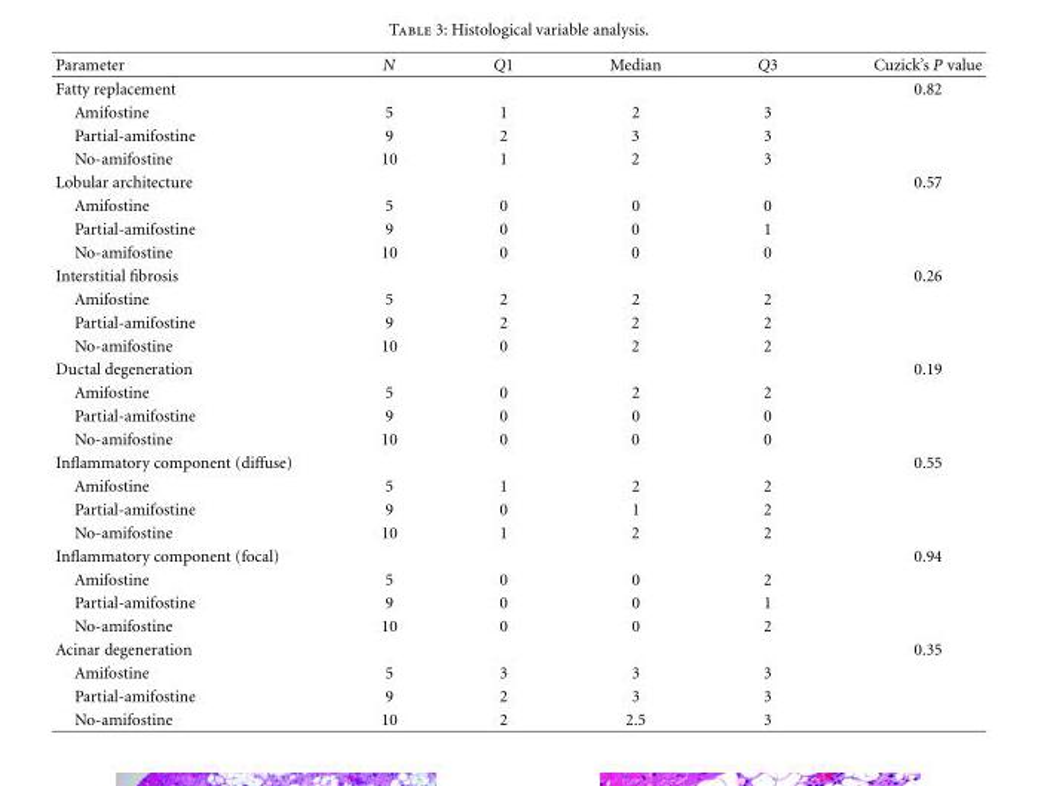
<table><thead><tr><td>Parameter</td><td>N</td><td>Q1</td><td>Median</td><td>Q3</td><td>Cuzick’s P value</td></tr></thead><tbody><tr><td>Fatty replacement</td><td></td><td></td><td></td><td></td><td>0.82</td></tr><tr><td>Amifostine</td><td>5</td><td>1</td><td>2</td><td>3</td><td></td></tr><tr><td>Partial-amifostine</td><td>9</td><td>2</td><td>3</td><td>3</td><td></td></tr><tr><td>No-amifostine</td><td>10</td><td>1</td><td>2</td><td>3</td><td></td></tr><tr><td>Lobular architecture</td><td></td><td></td><td></td><td></td><td>0.57</td></tr><tr><td>Amifostine</td><td>5</td><td>0</td><td>0</td><td>0</td><td></td></tr><tr><td>Partial-amifostine</td><td>9</td><td>0</td><td>0</td><td>1</td><td></td></tr><tr><td>No-amifostine</td><td>10</td><td>0</td><td>0</td><td>0</td><td></td></tr><tr><td>Interstitial fibrosis</td><td></td><td></td><td></td><td></td><td>0.26</td></tr><tr><td>Amifostine</td><td>5</td><td>2</td><td>2</td><td>2</td><td></td></tr><tr><td>Partial-amifostine</td><td>9</td><td>2</td><td>2</td><td>2</td><td></td></tr><tr><td>No-amifostine</td><td>10</td><td>0</td><td>2</td><td>2</td><td></td></tr><tr><td>Ductal degeneration</td><td></td><td></td><td></td><td></td><td>0.19</td></tr><tr><td>Amifostine</td><td>5</td><td>0</td><td>2</td><td>2</td><td></td></tr><tr><td>Partial-amifostine</td><td>9</td><td>0</td><td>0</td><td>0</td><td></td></tr><tr><td>No-amifostine</td><td>10</td><td>0</td><td>0</td><td>0</td><td></td></tr><tr><td>Inflammatory component (diffuse)</td><td></td><td></td><td></td><td></td><td>0.55</td></tr><tr><td>Amifostine</td><td>5</td><td>1</td><td>2</td><td>2</td><td></td></tr><tr><td>Partial-amifostine</td><td>9</td><td>0</td><td>1</td><td>2</td><td></td></tr><tr><td>No-amifostine</td><td>10</td><td>1</td><td>2</td><td>2</td><td></td></tr><tr><td>Inflammatory component (focal)</td><td></td><td></td><td></td><td></td><td>0.94</td></tr><tr><td>Amifostine</td><td>5</td><td>0</td><td>0</td><td>2</td><td></td></tr><tr><td>Partial-amifostine</td><td>9</td><td>0</td><td>0</td><td>1</td><td></td></tr><tr><td>No-amifostine</td><td>10</td><td>0</td><td>0</td><td>2</td><td></td></tr><tr><td>Acinar degeneration</td><td></td><td></td><td></td><td></td><td>0.35</td></tr><tr><td>Amifostine</td><td>5</td><td>3</td><td>3</td><td>3</td><td></td></tr><tr><td>Partial-amifostine</td><td>9</td><td>2</td><td>3</td><td>3</td><td></td></tr><tr><td>No-amifostine</td><td>10</td><td>2</td><td>2.5</td><td>3</td><td></td></tr></tbody></table>